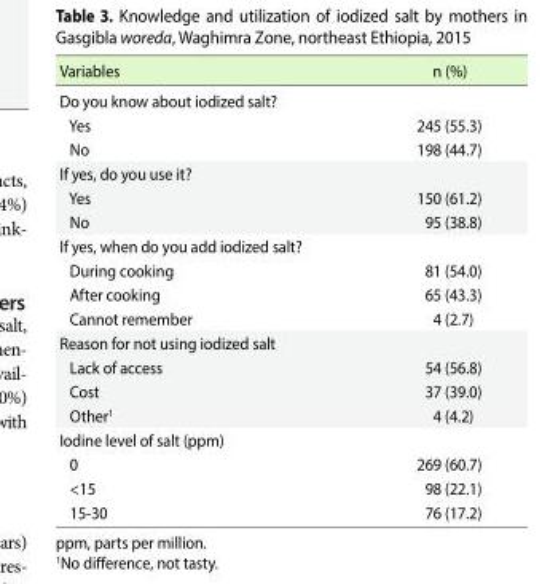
<table><thead><tr><td>Variables</td><td>n (%)</td></tr></thead><tbody><tr><td colspan="2">Do you know about iodized salt?</td></tr><tr><td>Yes</td><td>245 (55.3)</td></tr><tr><td>No</td><td>198 (44.7)</td></tr><tr><td colspan="2">If yes, do you use it?</td></tr><tr><td>Yes</td><td>150 (61.2)</td></tr><tr><td>No</td><td>95 (38.8)</td></tr><tr><td colspan="2">If yes, when do you add iodized salt?</td></tr><tr><td>During cooking</td><td>81 (54.0)</td></tr><tr><td>After cooking</td><td>65 (43.3)</td></tr><tr><td>Cannot remember</td><td>4 (2.7)</td></tr><tr><td colspan="2">Reason for not using iodized salt</td></tr><tr><td>Lack of access</td><td>54 (56.8)</td></tr><tr><td>Cost</td><td>37 (39.0)</td></tr><tr><td>Other<sup>1</sup></td><td>4 (4.2)</td></tr><tr><td colspan="2">Iodine level of salt (ppm)</td></tr><tr><td>0</td><td>269 (60.7)</td></tr><tr><td>&lt;15</td><td>98 (22.1)</td></tr><tr><td>15-30</td><td>76 (17.2)</td></tr></tbody></table>